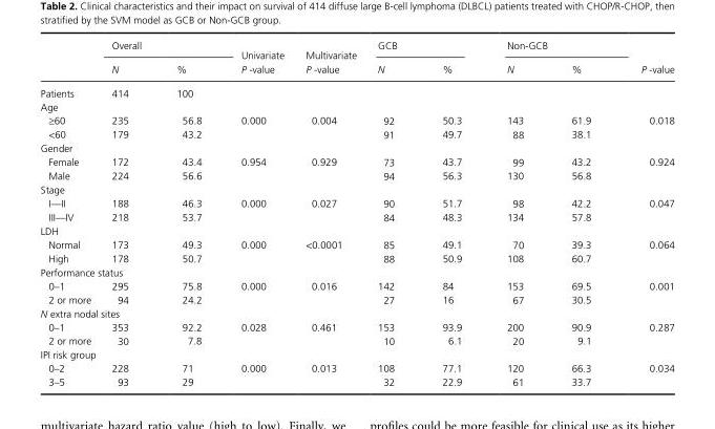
<table><thead><tr><td rowspan="2"></td><td colspan="2">Overall</td><td rowspan="2">Univariate P - value</td><td rowspan="2">Multivariate P - value</td><td colspan="2">GCB</td><td colspan="2">Non- GCB</td><td rowspan="2">P - value</td></tr><tr><td>N</td><td>%</td><td>N</td><td>%</td><td>N</td><td>%</td></tr></thead><tbody><tr><td>Patients</td><td>414</td><td>100</td><td></td><td></td><td></td><td></td><td></td><td></td><td></td></tr><tr><td colspan="10">Age</td></tr><tr><td>≥60</td><td>235</td><td>56.8</td><td rowspan="2">0.000</td><td rowspan="2">0.004</td><td>92</td><td>50.3</td><td>143</td><td>61.9</td><td rowspan="2">0.018</td></tr><tr><td>&lt;60</td><td>179</td><td>43.2</td><td>91</td><td>49.7</td><td>88</td><td>38.1</td></tr><tr><td colspan="10">Gender</td></tr><tr><td>Female</td><td>172</td><td>43.4</td><td rowspan="2">0.954</td><td rowspan="2">0.929</td><td>73</td><td>43.7</td><td>99</td><td>43.2</td><td rowspan="2">0.924</td></tr><tr><td>Male</td><td>224</td><td>56.6</td><td>94</td><td>56.3</td><td>130</td><td>56.8</td></tr><tr><td colspan="10">Stage</td></tr><tr><td>I—II</td><td>188</td><td>46.3</td><td rowspan="2">0.000</td><td rowspan="2">0.027</td><td>90</td><td>51.7</td><td>98</td><td>42.2</td><td rowspan="2">0.047</td></tr><tr><td>III—IV</td><td>218</td><td>53.7</td><td>84</td><td>48.3</td><td>134</td><td>57.8</td></tr><tr><td colspan="10">LDH</td></tr><tr><td>Normal</td><td>173</td><td>49.3</td><td rowspan="2">0.000</td><td rowspan="2">&lt;0.0001</td><td>85</td><td>49.1</td><td>70</td><td>39.3</td><td rowspan="2">0.064</td></tr><tr><td>High</td><td>178</td><td>50.7</td><td>88</td><td>50.9</td><td>108</td><td>60.7</td></tr><tr><td colspan="10">Performance status</td></tr><tr><td>0–1</td><td>295</td><td>75.8</td><td rowspan="2">0.000</td><td rowspan="2">0.016</td><td>142</td><td>84</td><td>153</td><td>69.5</td><td rowspan="2">0.001</td></tr><tr><td>2 or more</td><td>94</td><td>24.2</td><td>27</td><td>16</td><td>67</td><td>30.5</td></tr><tr><td colspan="10">N extra nodal sites</td></tr><tr><td>0–1</td><td>353</td><td>92.2</td><td rowspan="2">0.028</td><td rowspan="2">0.461</td><td>153</td><td>93.9</td><td>200</td><td>90.9</td><td rowspan="2">0.287</td></tr><tr><td>2 or more</td><td>30</td><td>7.8</td><td>10</td><td>6.1</td><td>20</td><td>9.1</td></tr><tr><td colspan="10">IPI risk group</td></tr><tr><td>0–2</td><td>228</td><td>71</td><td rowspan="2">0.000</td><td rowspan="2">0.013</td><td>108</td><td>77.1</td><td>120</td><td>66.3</td><td rowspan="2">0.034</td></tr><tr><td>3–5</td><td>93</td><td>29</td><td>32</td><td>22.9</td><td>61</td><td>33.7</td></tr></tbody></table>